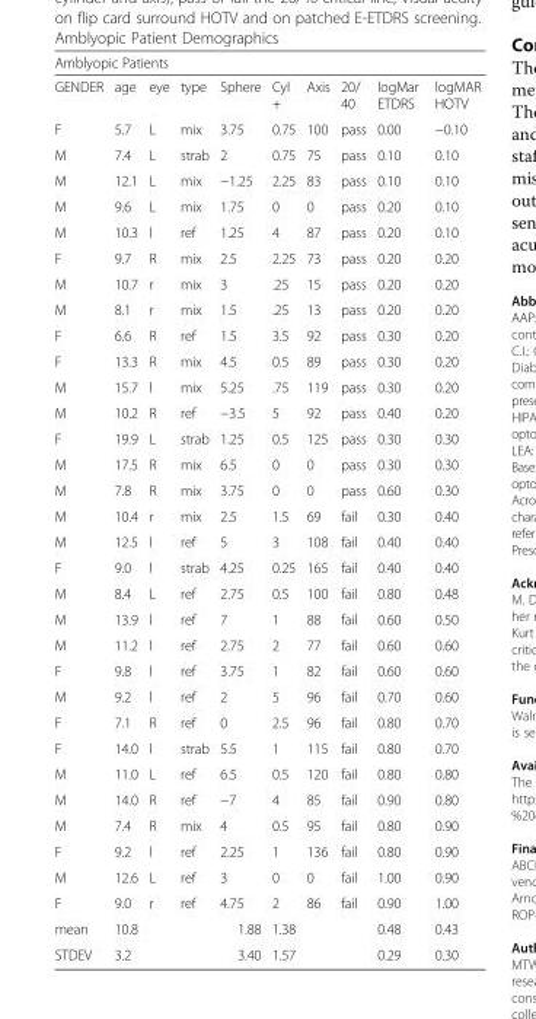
<table><thead><tr><td colspan="10">Amblyopic Patients</td></tr><tr><td>GENDER</td><td>age</td><td>eye</td><td>type</td><td>Sphere</td><td>Cyl +</td><td>Axis</td><td>20/ 40</td><td>logMar ETDRS</td><td>logMAR HOTV</td></tr></thead><tbody><tr><td>F</td><td>5.7</td><td>L</td><td>mix</td><td>3.75</td><td>0.75</td><td>100</td><td>pass</td><td>0.00</td><td>−0.10</td></tr><tr><td>M</td><td>7.4</td><td>L</td><td>strab</td><td>2</td><td>0.75</td><td>75</td><td>pass</td><td>0.10</td><td>0.10</td></tr><tr><td>M</td><td>12.1</td><td>L</td><td>mix</td><td>−1.25</td><td>2.25</td><td>83</td><td>pass</td><td>0.10</td><td>0.10</td></tr><tr><td>M</td><td>9.6</td><td>L</td><td>mix</td><td>1.75</td><td>0</td><td>0</td><td>pass</td><td>0.20</td><td>0.10</td></tr><tr><td>M</td><td>10.3</td><td>l</td><td>ref</td><td>1.25</td><td>4</td><td>87</td><td>pass</td><td>0.20</td><td>0.10</td></tr><tr><td>F</td><td>9.7</td><td>R</td><td>mix</td><td>2.5</td><td>2.25</td><td>73</td><td>pass</td><td>0.20</td><td>0.20</td></tr><tr><td>M</td><td>10.7</td><td>r</td><td>mix</td><td>3</td><td>.25</td><td>15</td><td>pass</td><td>0.20</td><td>0.20</td></tr><tr><td>M</td><td>8.1</td><td>r</td><td>mix</td><td>1.5</td><td>.25</td><td>13</td><td>pass</td><td>0.20</td><td>0.20</td></tr><tr><td>F</td><td>6.6</td><td>R</td><td>ref</td><td>1.5</td><td>3.5</td><td>92</td><td>pass</td><td>0.30</td><td>0.20</td></tr><tr><td>F</td><td>13.3</td><td>R</td><td>mix</td><td>4.5</td><td>0.5</td><td>89</td><td>pass</td><td>0.30</td><td>0.20</td></tr><tr><td>M</td><td>15.7</td><td>l</td><td>mix</td><td>5.25</td><td>.75</td><td>119</td><td>pass</td><td>0.30</td><td>0.20</td></tr><tr><td>M</td><td>10.2</td><td>R</td><td>ref</td><td>−3.5</td><td>5</td><td>92</td><td>pass</td><td>0.40</td><td>0.20</td></tr><tr><td>F</td><td>19.9</td><td>L</td><td>strab</td><td>1.25</td><td>0.5</td><td>125</td><td>pass</td><td>0.30</td><td>0.30</td></tr><tr><td>M</td><td>17.5</td><td>R</td><td>mix</td><td>6.5</td><td>0</td><td>0</td><td>pass</td><td>0.30</td><td>0.30</td></tr><tr><td>M</td><td>7.8</td><td>R</td><td>mix</td><td>3.75</td><td>0</td><td>0</td><td>pass</td><td>0.60</td><td>0.30</td></tr><tr><td>M</td><td>10.4</td><td>r</td><td>mix</td><td>2.5</td><td>1.5</td><td>69</td><td>fail</td><td>0.30</td><td>0.40</td></tr><tr><td>M</td><td>12.5</td><td>l</td><td>ref</td><td>5</td><td>3</td><td>108</td><td>fail</td><td>0.40</td><td>0.40</td></tr><tr><td>F</td><td>9.0</td><td>l</td><td>strab</td><td>4.25</td><td>0.25</td><td>165</td><td>fail</td><td>0.40</td><td>0.40</td></tr><tr><td>M</td><td>8.4</td><td>L</td><td>ref</td><td>2.75</td><td>0.5</td><td>100</td><td>fail</td><td>0.80</td><td>0.48</td></tr><tr><td>M</td><td>13.9</td><td>l</td><td>ref</td><td>7</td><td>1</td><td>88</td><td>fail</td><td>0.60</td><td>0.50</td></tr><tr><td>M</td><td>11.2</td><td>l</td><td>ref</td><td>2.75</td><td>2</td><td>77</td><td>fail</td><td>0.60</td><td>0.60</td></tr><tr><td>F</td><td>9.8</td><td>l</td><td>ref</td><td>3.75</td><td>1</td><td>82</td><td>fail</td><td>0.60</td><td>0.60</td></tr><tr><td>M</td><td>9.2</td><td>l</td><td>ref</td><td>2</td><td>5</td><td>96</td><td>fail</td><td>0.70</td><td>0.60</td></tr><tr><td>F</td><td>7.1</td><td>R</td><td>ref</td><td>0</td><td>2.5</td><td>96</td><td>fail</td><td>0.80</td><td>0.70</td></tr><tr><td>F</td><td>14.0</td><td>l</td><td>strab</td><td>5.5</td><td>1</td><td>115</td><td>fail</td><td>0.80</td><td>0.70</td></tr><tr><td>M</td><td>11.0</td><td>L</td><td>ref</td><td>6.5</td><td>0.5</td><td>120</td><td>fail</td><td>0.80</td><td>0.80</td></tr><tr><td>M</td><td>14.0</td><td>R</td><td>ref</td><td>−7</td><td>4</td><td>85</td><td>fail</td><td>0.90</td><td>0.80</td></tr><tr><td>M</td><td>7.4</td><td>R</td><td>mix</td><td>4</td><td>0.5</td><td>95</td><td>fail</td><td>0.80</td><td>0.90</td></tr><tr><td>F</td><td>9.2</td><td>l</td><td>ref</td><td>2.25</td><td>1</td><td>136</td><td>fail</td><td>0.80</td><td>0.90</td></tr><tr><td>M</td><td>12.6</td><td>L</td><td>ref</td><td>3</td><td>0</td><td>0</td><td>fail</td><td>1.00</td><td>0.90</td></tr><tr><td>F</td><td>9.0</td><td>r</td><td>ref</td><td>4.75</td><td>2</td><td>86</td><td>fail</td><td>0.90</td><td>1.00</td></tr><tr><td>mean</td><td>10.8</td><td></td><td></td><td>1.88</td><td>1.38</td><td></td><td></td><td>0.48</td><td>0.43</td></tr><tr><td>STDEV</td><td>3.2</td><td></td><td></td><td>3.40</td><td>1.57</td><td></td><td></td><td>0.29</td><td>0.30</td></tr></tbody></table>